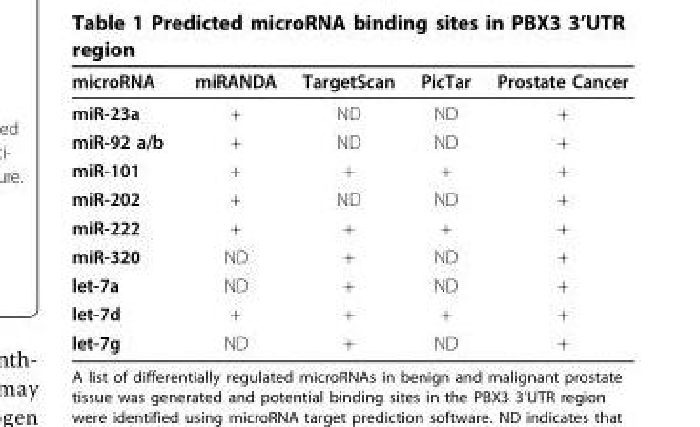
<table><thead><tr><td>microRNA</td><td>miRANDA</td><td>TargetScan</td><td>PicTar</td><td>Prostate Cancer</td></tr></thead><tbody><tr><td>miR-23a</td><td>+</td><td>ND</td><td>ND</td><td>+</td></tr><tr><td>miR-92 a/b</td><td>+</td><td>ND</td><td>ND</td><td>+</td></tr><tr><td>miR-101</td><td>+</td><td>+</td><td>+</td><td>+</td></tr><tr><td>miR-202</td><td>+</td><td>ND</td><td>ND</td><td>+</td></tr><tr><td>miR-222</td><td>+</td><td>+</td><td>+</td><td>+</td></tr><tr><td>miR-320</td><td>ND</td><td>+</td><td>ND</td><td>+</td></tr><tr><td>let-7a</td><td>ND</td><td>+</td><td>ND</td><td>+</td></tr><tr><td>let-7d</td><td>+</td><td>+</td><td>+</td><td>+</td></tr><tr><td>let-7g</td><td>ND</td><td>+</td><td>ND</td><td>+</td></tr></tbody></table>